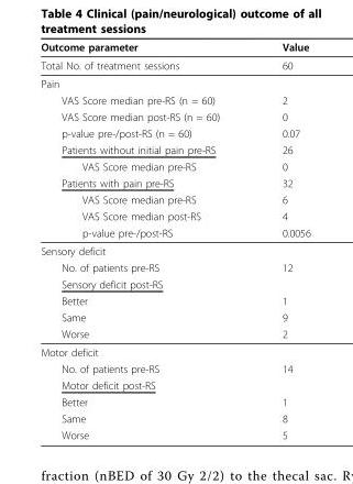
<table><thead><tr><td>Outcome parameter</td><td>Value</td></tr></thead><tbody><tr><td>Total No. of treatment sessions</td><td>60</td></tr><tr><td colspan="2">Pain</td></tr><tr><td>VAS Score median pre-RS (n = 60)</td><td>2</td></tr><tr><td>VAS Score median post-RS (n = 60)</td><td>0</td></tr><tr><td>p-value pre-/post-RS (n = 60)</td><td>0.07</td></tr><tr><td>Patients without initial pain pre-RS</td><td>26</td></tr><tr><td>VAS Score median pre-RS</td><td>0</td></tr><tr><td>Patients with pain pre-RS</td><td>32</td></tr><tr><td>VAS Score median pre-RS</td><td>6</td></tr><tr><td>VAS Score median post-RS</td><td>4</td></tr><tr><td>p-value pre-/post-RS</td><td>0.0056</td></tr><tr><td colspan="2">Sensory deficit</td></tr><tr><td>No. of patients pre-RS</td><td>12</td></tr><tr><td colspan="2">Sensory deficit post-RS</td></tr><tr><td>Better</td><td>1</td></tr><tr><td>Same</td><td>9</td></tr><tr><td>Worse</td><td>2</td></tr><tr><td colspan="2">Motor deficit</td></tr><tr><td>No. of patients pre-RS</td><td>14</td></tr><tr><td colspan="2">Motor deficit post-RS</td></tr><tr><td>Better</td><td>1</td></tr><tr><td>Same</td><td>8</td></tr><tr><td>Worse</td><td>5</td></tr></tbody></table>